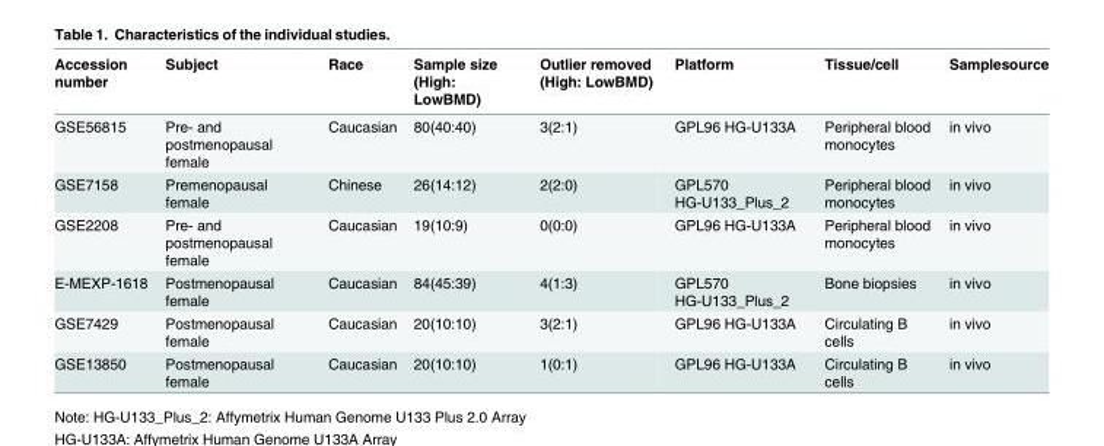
<table><thead><tr><td>Accession number</td><td>Subject</td><td>Race</td><td>Sample size (High: LowBMD)</td><td>Outlier removed (High: LowBMD)</td><td>Platform</td><td>Tissue/cell</td><td>Samplesource</td></tr></thead><tbody><tr><td>GSE56815</td><td>Pre- and postmenopausal female</td><td>Caucasian</td><td>80(40:40)</td><td>3(2:1)</td><td>GPL96 HG-U133A</td><td>Peripheral blood monocytes</td><td>in vivo</td></tr><tr><td>GSE7158</td><td>Premenopausal female</td><td>Chinese</td><td>26(14:12)</td><td>2(2:0)</td><td>GPL570 HG-U133_Plus_2</td><td>Peripheral blood monocytes</td><td>in vivo</td></tr><tr><td>GSE2208</td><td>Pre- and postmenopausal female</td><td>Caucasian</td><td>19(10:9)</td><td>0(0:0)</td><td>GPL96 HG-U133A</td><td>Peripheral blood monocytes</td><td>in vivo</td></tr><tr><td>E-MEXP-1618</td><td>Postmenopausal female</td><td>Caucasian</td><td>84(45:39)</td><td>4(1:3)</td><td>GPL570 HG-U133_Plus_2</td><td>Bone biopsies</td><td>in vivo</td></tr><tr><td>GSE7429</td><td>Postmenopausal female</td><td>Caucasian</td><td>20(10:10)</td><td>3(2:1)</td><td>GPL96 HG-U133A</td><td>Circulating B cells</td><td>in vivo</td></tr><tr><td>GSE13850</td><td>Postmenopausal female</td><td>Caucasian</td><td>20(10:10)</td><td>1(0:1)</td><td>GPL96 HG-U133A</td><td>Circulating B cells</td><td>in vivo</td></tr></tbody></table>